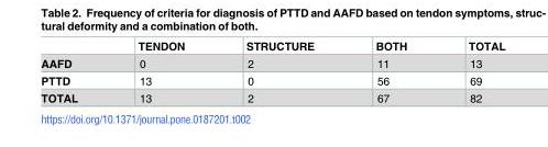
<table><thead><tr><td></td><td>TENDON</td><td>STRUCTURE</td><td>BOTH</td><td>TOTAL</td></tr></thead><tbody><tr><td>AAFD</td><td>0</td><td>2</td><td>11</td><td>13</td></tr><tr><td>PTTD</td><td>13</td><td>0</td><td>56</td><td>69</td></tr><tr><td>TOTAL</td><td>13</td><td>2</td><td>67</td><td>82</td></tr></tbody></table>